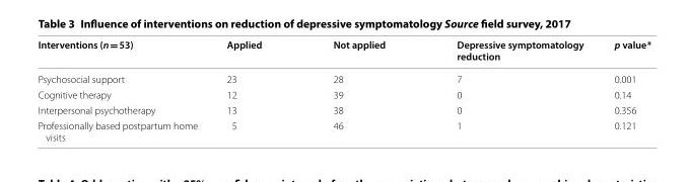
<table><thead><tr><td>Interventions (n = 53)</td><td>Applied</td><td>Not applied</td><td>Depressive symptomatology reduction</td><td>p value*</td></tr></thead><tbody><tr><td>Psychosocial support</td><td>23</td><td>28</td><td>7</td><td>0.001</td></tr><tr><td>Cognitive therapy</td><td>12</td><td>39</td><td>0</td><td>0.14</td></tr><tr><td>Interpersonal psychotherapy</td><td>13</td><td>38</td><td>0</td><td>0.356</td></tr><tr><td>Professionally based postpartum home visits</td><td>5</td><td>46</td><td>1</td><td>0.121</td></tr></tbody></table>